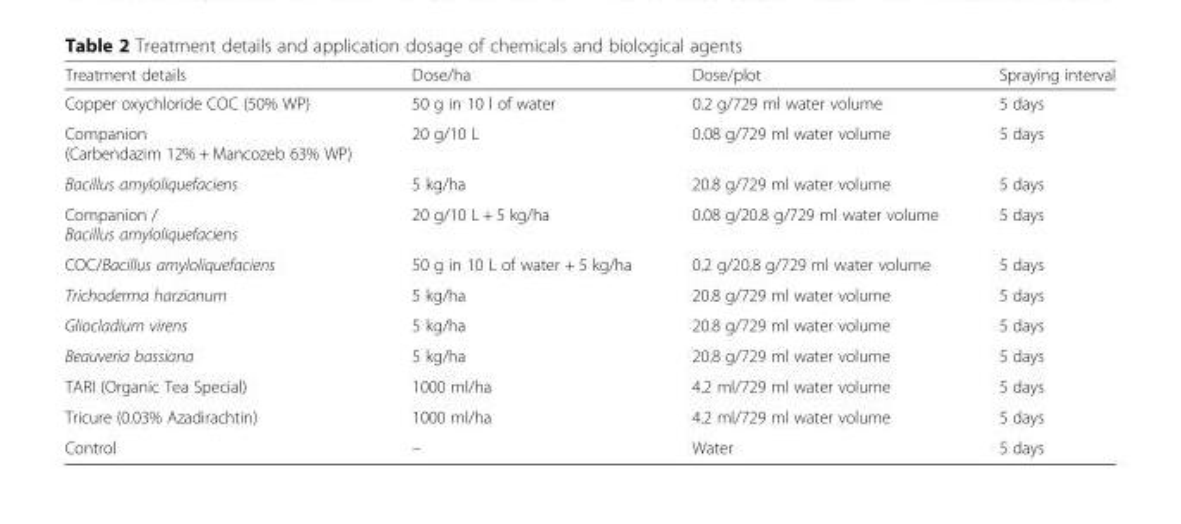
<table><thead><tr><td>Treatment details</td><td>Dose/ha</td><td>Dose/plot</td><td>Spraying interval</td></tr></thead><tbody><tr><td>Copper oxychloride COC (50% WP)</td><td>50 g in 10 l of water</td><td>0.2 g/729 ml water volume</td><td>5 days</td></tr><tr><td>Companion (Carbendazim 12% + Mancozeb 63% WP)</td><td>20 g/10 L</td><td>0.08 g/729 ml water volume</td><td>5 days</td></tr><tr><td>Bacillus amyloliquefaciens</td><td>5 kg/ha</td><td>20.8 g/729 ml water volume</td><td>5 days</td></tr><tr><td>Companion / Bacillus amyloliquefaciens</td><td>20 g/10 L + 5 kg/ha</td><td>0.08 g/20.8 g/729 ml water volume</td><td>5 days</td></tr><tr><td>COC/Bacillus amyloliquefaciens</td><td>50 g in 10 L of water + 5 kg/ha</td><td>0.2 g/20.8 g/729 ml water volume</td><td>5 days</td></tr><tr><td>Trichoderma harzianum</td><td>5 kg/ha</td><td>20.8 g/729 ml water volume</td><td>5 days</td></tr><tr><td>Gliocladium virens</td><td>5 kg/ha</td><td>20.8 g/729 ml water volume</td><td>5 days</td></tr><tr><td>Beauveria bassiana</td><td>5 kg/ha</td><td>20.8 g/729 ml water volume</td><td>5 days</td></tr><tr><td>TARI (Organic Tea Special)</td><td>1000 ml/ha</td><td>4.2 ml/729 ml water volume</td><td>5 days</td></tr><tr><td>Tricure (0.03% Azadirachtin)</td><td>1000 ml/ha</td><td>4.2 ml/729 ml water volume</td><td>5 days</td></tr><tr><td>Control</td><td>–</td><td>Water</td><td>5 days</td></tr></tbody></table>